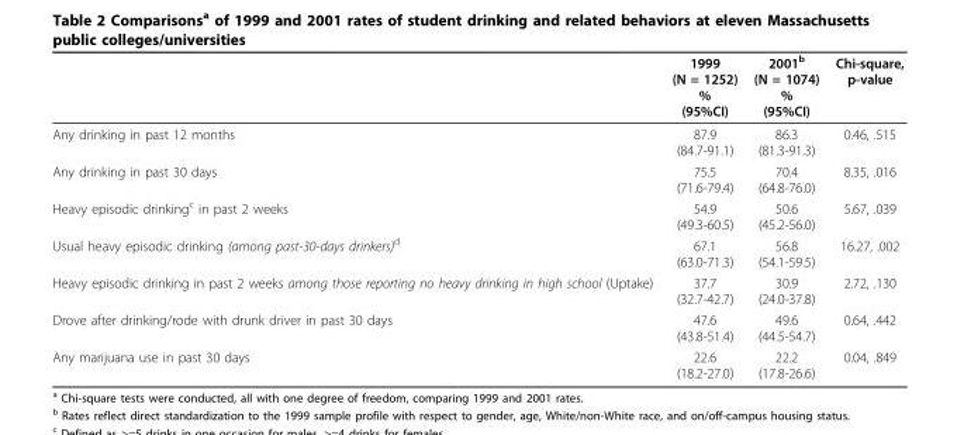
<table><thead><tr><td></td><td>1999 (N = 1252) % (95%CI)</td><td>2001<sup>b</sup> (N = 1074) % (95%CI)</td><td>Chi-square, p-value</td></tr></thead><tbody><tr><td>Any drinking in past 12 months</td><td>87.9 (84.7-91.1)</td><td>86.3 (81.3-91.3)</td><td>0.46, .515</td></tr><tr><td>Any drinking in past 30 days</td><td>75.5 (71.6-79.4)</td><td>70.4 (64.8-76.0)</td><td>8.35, .016</td></tr><tr><td>Heavy episodic drinking<sup>c</sup> in past 2 weeks</td><td>54.9 (49.3-60.5)</td><td>50.6 (45.2-56.0)</td><td>5.67, .039</td></tr><tr><td>Usual heavy episodic drinking (among past-30-days drinkers)<sup>d</sup></td><td>67.1 (63.0-71.3)</td><td>56.8 (54.1-59.5)</td><td>16.27, .002</td></tr><tr><td>Heavy episodic drinking in past 2 weeks among those reporting no heavy drinking in high school (Uptake)</td><td>37.7 (32.7-42.7)</td><td>30.9 (24.0-37.8)</td><td>2.72, .130</td></tr><tr><td>Drove after drinking/rode with drunk driver in past 30 days</td><td>47.6 (43.8-51.4)</td><td>49.6 (44.5-54.7)</td><td>0.64, .442</td></tr><tr><td>Any marijuana use in past 30 days</td><td>22.6 (18.2-27.0)</td><td>22.2 (17.8-26.6)</td><td>0.04, .849</td></tr></tbody></table>